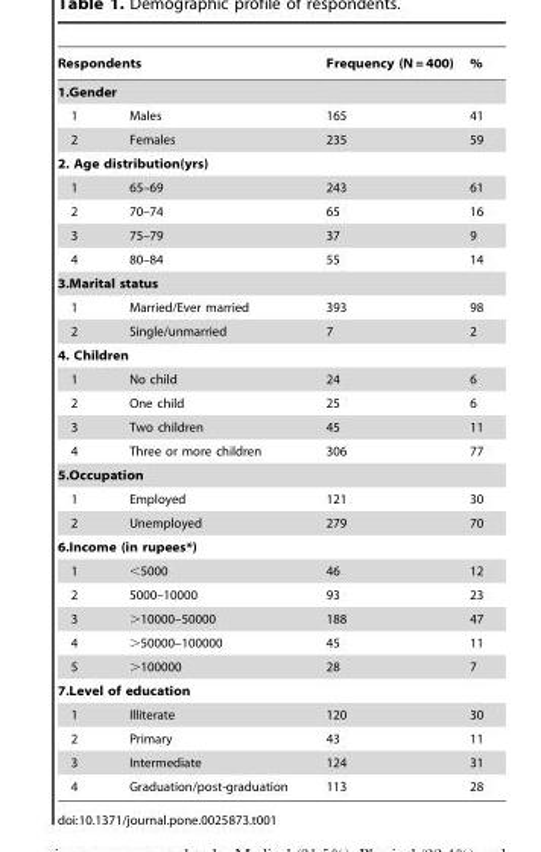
<table><thead><tr><td colspan="2">Respondents</td><td>Frequency (N = 400)</td><td>%</td></tr><tr><td colspan="4">1.Gender</td></tr><tr><td>1</td><td>Males</td><td>165</td><td>41</td></tr></thead><tbody><tr><td>2</td><td>Females</td><td>235</td><td>59</td></tr><tr><td colspan="4">2. Age distribution(yrs)</td></tr><tr><td>1</td><td>65–69</td><td>243</td><td>61</td></tr><tr><td>2</td><td>70–74</td><td>65</td><td>16</td></tr><tr><td>3</td><td>75–79</td><td>37</td><td>9</td></tr><tr><td>4</td><td>80–84</td><td>55</td><td>14</td></tr><tr><td colspan="4">3.Marital status</td></tr><tr><td>1</td><td>Married/Ever married</td><td>393</td><td>98</td></tr><tr><td>2</td><td>Single/unmarried</td><td>7</td><td>2</td></tr><tr><td colspan="4">4. Children</td></tr><tr><td>1</td><td>No child</td><td>24</td><td>6</td></tr><tr><td>2</td><td>One child</td><td>25</td><td>6</td></tr><tr><td>3</td><td>Two children</td><td>45</td><td>11</td></tr><tr><td>4</td><td>Three or more children</td><td>306</td><td>77</td></tr><tr><td colspan="4">5.Occupation</td></tr><tr><td>1</td><td>Employed</td><td>121</td><td>30</td></tr><tr><td>2</td><td>Unemployed</td><td>279</td><td>70</td></tr><tr><td colspan="4">6.Income (in rupees*)</td></tr><tr><td>1</td><td>&lt;5000</td><td>46</td><td>12</td></tr><tr><td>2</td><td>5000–10000</td><td>93</td><td>23</td></tr><tr><td>3</td><td>&gt;10000–50000</td><td>188</td><td>47</td></tr><tr><td>4</td><td>&gt;50000–100000</td><td>45</td><td>11</td></tr><tr><td>5</td><td>&gt;100000</td><td>28</td><td>7</td></tr><tr><td colspan="4">7.Level of education</td></tr><tr><td>1</td><td>Illiterate</td><td>120</td><td>30</td></tr><tr><td>2</td><td>Primary</td><td>43</td><td>11</td></tr><tr><td>3</td><td>Intermediate</td><td>124</td><td>31</td></tr><tr><td>4</td><td>Graduation/post-graduation</td><td>113</td><td>28</td></tr></tbody></table>